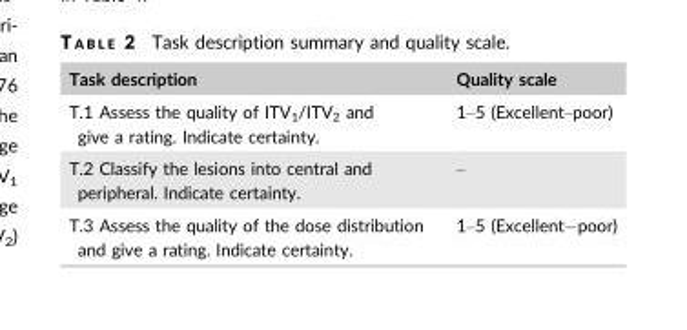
<table><thead><tr><td>Task description</td><td>Quality scale</td></tr></thead><tbody><tr><td>T.1 Assess the quality of ITV<sub>1</sub>/ITV<sub>2</sub> and give a rating. Indicate certainty.</td><td>1–5 (Excellent–poor)</td></tr><tr><td>T.2 Classify the lesions into central and peripheral. Indicate certainty.</td><td>–</td></tr><tr><td>T.3 Assess the quality of the dose distribution and give a rating. Indicate certainty.</td><td>1–5 (Excellent−poor)</td></tr></tbody></table>